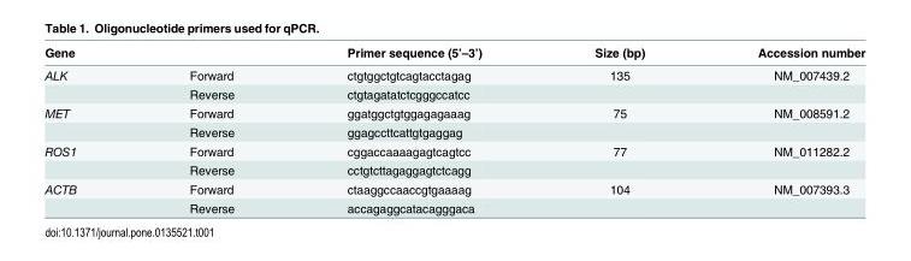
<table><thead><tr><td>Gene</td><td></td><td>Primer sequence (5’–3’)</td><td>Size (bp)</td><td>Accession number</td></tr></thead><tbody><tr><td rowspan="2">ALK</td><td>Forward</td><td>ctgtggctgtcagtacctagag</td><td>135</td><td>NM_007439.2</td></tr><tr><td>Reverse</td><td>ctgtagatatctcgggccatcc</td><td></td><td></td></tr><tr><td rowspan="2">MET</td><td>Forward</td><td>ggatggctgtggagagaaag</td><td>75</td><td>NM_008591.2</td></tr><tr><td>Reverse</td><td>ggagccttcattgtgaggag</td><td></td><td></td></tr><tr><td rowspan="2">ROS1</td><td>Forward</td><td>cggaccaaaagagtcagtcc</td><td>77</td><td>NM_011282.2</td></tr><tr><td>Reverse</td><td>cctgtcttagaggagtctcagg</td><td></td><td></td></tr><tr><td rowspan="2">ACTB</td><td>Forward</td><td>ctaaggccaaccgtgaaaag</td><td>104</td><td>NM_007393.3</td></tr><tr><td>Reverse</td><td>accagaggcatacagggaca</td><td></td><td></td></tr></tbody></table>